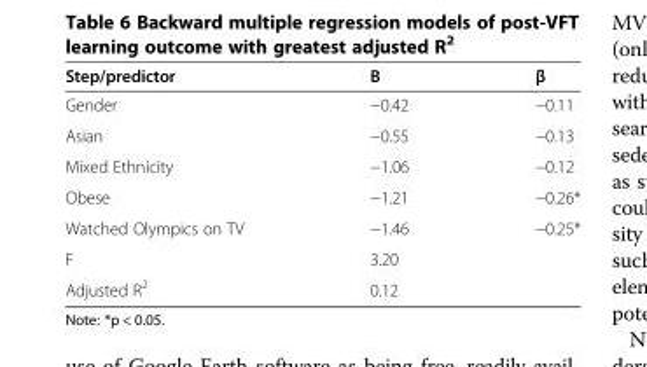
<table><thead><tr><td>Step/predictor</td><td>B</td><td>β</td></tr></thead><tbody><tr><td>Gender</td><td>−0.42</td><td>−0.11</td></tr><tr><td>Asian</td><td>−0.55</td><td>−0.13</td></tr><tr><td>Mixed Ethnicity</td><td>−1.06</td><td>−0.12</td></tr><tr><td>Obese</td><td>−1.21</td><td>−0.26*</td></tr><tr><td>Watched Olympics on TV</td><td>−1.46</td><td>−0.25*</td></tr><tr><td>F</td><td colspan="2">3.20</td></tr><tr><td>Adjusted R<sup>2</sup></td><td colspan="2">0.12</td></tr></tbody></table>